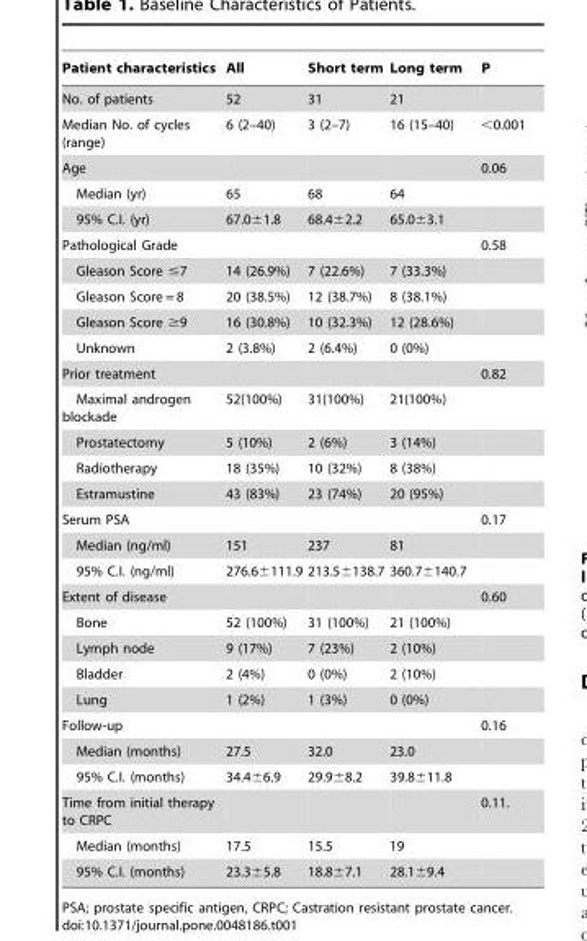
<table><thead><tr><td>Patient characteristics</td><td>All</td><td>Short term</td><td>Long term</td><td>P</td></tr></thead><tbody><tr><td>No. of patients</td><td>52</td><td>31</td><td>21</td><td></td></tr><tr><td>Median No. of cycles (range)</td><td>6 (2–40)</td><td>3 (2–7)</td><td>16 (15–40)</td><td>&lt;0.001</td></tr><tr><td>Age</td><td></td><td></td><td></td><td>0.06</td></tr><tr><td>Median (yr)</td><td>65</td><td>68</td><td>64</td><td></td></tr><tr><td>95% C.I. (yr)</td><td>67.0±1.8</td><td>68.4±2.2</td><td>65.0±3.1</td><td></td></tr><tr><td>Pathological Grade</td><td></td><td></td><td></td><td>0.58</td></tr><tr><td>Gleason Score ≤7</td><td>14 (26.9%)</td><td>7 (22.6%)</td><td>7 (33.3%)</td><td></td></tr><tr><td>Gleason Score = 8</td><td>20 (38.5%)</td><td>12 (38.7%)</td><td>8 (38.1%)</td><td></td></tr><tr><td>Gleason Score ≥9</td><td>16 (30.8%)</td><td>10 (32.3%)</td><td>12 (28.6%)</td><td></td></tr><tr><td>Unknown</td><td>2 (3.8%)</td><td>2 (6.4%)</td><td>0 (0%)</td><td></td></tr><tr><td>Prior treatment</td><td></td><td></td><td></td><td>0.82</td></tr><tr><td>Maximal androgen blockade</td><td>52(100%)</td><td>31(100%)</td><td>21(100%)</td><td></td></tr><tr><td>Prostatectomy</td><td>5 (10%)</td><td>2 (6%)</td><td>3 (14%)</td><td></td></tr><tr><td>Radiotherapy</td><td>18 (35%)</td><td>10 (32%)</td><td>8 (38%)</td><td></td></tr><tr><td>Estramustine</td><td>43 (83%)</td><td>23 (74%)</td><td>20 (95%)</td><td></td></tr><tr><td>Serum PSA</td><td></td><td></td><td></td><td>0.17</td></tr><tr><td>Median (ng/ml)</td><td>151</td><td>237</td><td>81</td><td></td></tr><tr><td>95% C.I. (ng/ml)</td><td>276.6±111.9</td><td>213.5±138.7</td><td>360.7±140.7</td><td></td></tr><tr><td>Extent of disease</td><td></td><td></td><td></td><td>0.60</td></tr><tr><td>Bone</td><td>52 (100%)</td><td>31 (100%)</td><td>21 (100%)</td><td></td></tr><tr><td>Lymph node</td><td>9 (17%)</td><td>7 (23%)</td><td>2 (10%)</td><td></td></tr><tr><td>Bladder</td><td>2 (4%)</td><td>0 (0%)</td><td>2 (10%)</td><td></td></tr><tr><td>Lung</td><td>1 (2%)</td><td>1 (3%)</td><td>0 (0%)</td><td></td></tr><tr><td>Follow-up</td><td></td><td></td><td></td><td>0.16</td></tr><tr><td>Median (months)</td><td>27.5</td><td>32.0</td><td>23.0</td><td></td></tr><tr><td>95% C.I. (months)</td><td>34.4±6.9</td><td>29.9±8.2</td><td>39.8±11.8</td><td></td></tr><tr><td>Time from initial therapy to CRPC</td><td></td><td></td><td></td><td>0.11.</td></tr><tr><td>Median (months)</td><td>17.5</td><td>15.5</td><td>19</td><td></td></tr><tr><td>95% C.I. (months)</td><td>23.3±5.8</td><td>18.8±7.1</td><td>28.1±9.4</td><td></td></tr></tbody></table>